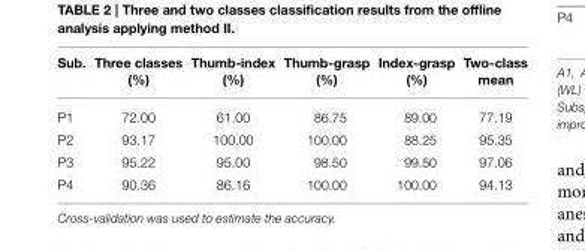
<table><thead><tr><td>Sub.</td><td>Three classes (%)</td><td>Thumb-index (%)</td><td>Thumb-grasp (%)</td><td>Index-grasp (%)</td><td>Two-class mean</td></tr></thead><tbody><tr><td>P1</td><td>72.00</td><td>61.00</td><td>86.75</td><td>89.00</td><td>77.19</td></tr><tr><td>P2</td><td>93.17</td><td>100.00</td><td>100.00</td><td>88.25</td><td>95.35</td></tr><tr><td>P3</td><td>95.22</td><td>95.00</td><td>98.50</td><td>99.50</td><td>97.06</td></tr><tr><td>P4</td><td>90.36</td><td>86.16</td><td>100.00</td><td>100.00</td><td>94.13</td></tr></tbody></table>